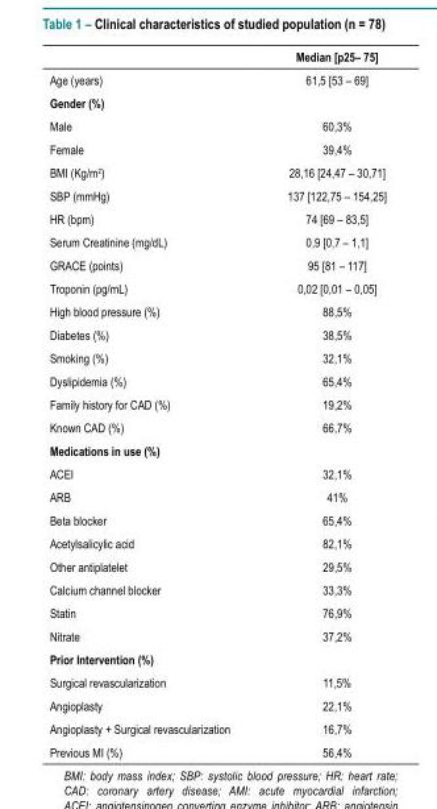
<table><thead><tr><td></td><td>Median [p25– 75]</td></tr></thead><tbody><tr><td>Age (years)</td><td>61,5 [53 – 69]</td></tr><tr><td colspan="2">Gender (%)</td></tr><tr><td>Male</td><td>60,3%</td></tr><tr><td>Female</td><td>39,4%</td></tr><tr><td>BMI (Kg/m<sup>2</sup>)</td><td>28,16 [24,47 – 30,71]</td></tr><tr><td>SBP (mmHg)</td><td>137 [122,75 – 154,25]</td></tr><tr><td>HR (bpm)</td><td>74 [69 – 83,5]</td></tr><tr><td>Serum Creatinine (mg/dL)</td><td>0,9 [0,7 – 1,1]</td></tr><tr><td>GRACE (points)</td><td>95 [81 – 117]</td></tr><tr><td>Troponin (pg/mL)</td><td>0,02 [0,01 – 0,05]</td></tr><tr><td>High blood pressure (%)</td><td>88,5%</td></tr><tr><td>Diabetes (%)</td><td>38,5%</td></tr><tr><td>Smoking (%)</td><td>32,1%</td></tr><tr><td>Dyslipidemia (%)</td><td>65,4%</td></tr><tr><td>Family history for CAD (%)</td><td>19,2%</td></tr><tr><td>Known CAD (%)</td><td>66,7%</td></tr><tr><td colspan="2">Medications in use (%)</td></tr><tr><td>ACEI</td><td>32,1%</td></tr><tr><td>ARB</td><td>41%</td></tr><tr><td>Beta blocker</td><td>65,4%</td></tr><tr><td>Acetylsalicylic acid</td><td>82,1%</td></tr><tr><td>Other antiplatelet</td><td>29,5%</td></tr><tr><td>Calcium channel blocker</td><td>33,3%</td></tr><tr><td>Statin</td><td>76,9%</td></tr><tr><td>Nitrate</td><td>37,2%</td></tr><tr><td colspan="2">Prior Intervention (%)</td></tr><tr><td>Surgical revascularization</td><td>11,5%</td></tr><tr><td>Angioplasty</td><td>22,1%</td></tr><tr><td>Angioplasty + Surgical revascularization</td><td>16,7%</td></tr><tr><td>Previous MI (%)</td><td>56,4%</td></tr></tbody></table>